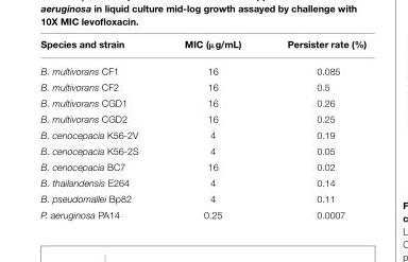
<table><thead><tr><td>Species and strain</td><td>MIC (µg/mL)</td><td>Persister rate (%)</td></tr></thead><tbody><tr><td>B. multivorans CF1</td><td>16</td><td>0.085</td></tr><tr><td>B. multivorans CF2</td><td>16</td><td>0.5</td></tr><tr><td>B. multivorans CGD1</td><td>16</td><td>0.26</td></tr><tr><td>B. multivorans CGD2</td><td>16</td><td>0.25</td></tr><tr><td>B. cenocepacia K56-2V</td><td>4</td><td>0.19</td></tr><tr><td>B. cenocepacia K56-2S</td><td>4</td><td>0.05</td></tr><tr><td>B. cenocepacia BC7</td><td>16</td><td>0.02</td></tr><tr><td>B. thailandensis E264</td><td>4</td><td>0.14</td></tr><tr><td>B. pseudomallei Bp82</td><td>4</td><td>0.11</td></tr><tr><td>P. aeruginosa PA14</td><td>0.25</td><td>0.0007</td></tr></tbody></table>